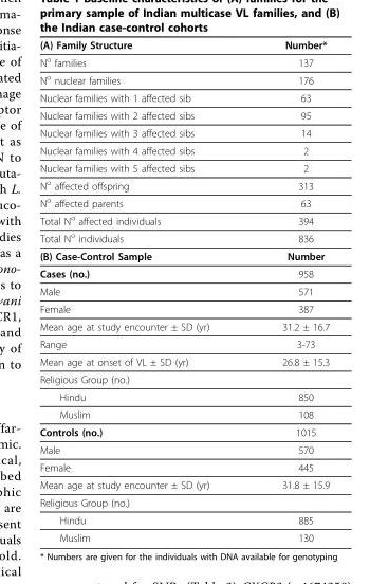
<table><thead><tr><td>(A) Family Structure</td><td>Number*</td></tr></thead><tbody><tr><td>N<sup>o</sup> families</td><td>137</td></tr><tr><td>N<sup>o</sup> nuclear families</td><td>176</td></tr><tr><td>Nuclear families with 1 affected sib</td><td>63</td></tr><tr><td>Nuclear families with 2 affected sibs</td><td>95</td></tr><tr><td>Nuclear families with 3 affected sibs</td><td>14</td></tr><tr><td>Nuclear families with 4 affected sibs</td><td>2</td></tr><tr><td>Nuclear families with 5 affected sibs</td><td>2</td></tr><tr><td>N<sup>o</sup> affected offspring</td><td>313</td></tr><tr><td>N<sup>o</sup> affected parents</td><td>63</td></tr><tr><td>Total N<sup>o</sup> affected individuals</td><td>394</td></tr><tr><td>Total N<sup>o</sup> individuals</td><td>836</td></tr><tr><td>(B) Case-Control Sample</td><td>Number</td></tr><tr><td>Cases (no.)</td><td>958</td></tr><tr><td>Male</td><td>571</td></tr><tr><td>Female</td><td>387</td></tr><tr><td>Mean age at study encounter ± SD (yr)</td><td>31.2 ± 16.7</td></tr><tr><td>Range</td><td>3-73</td></tr><tr><td>Mean age at onset of VL ± SD (yr)</td><td>26.8 ± 15.3</td></tr><tr><td colspan="2">Religious Group (no.)</td></tr><tr><td>Hindu</td><td>850</td></tr><tr><td>Muslim</td><td>108</td></tr><tr><td>Controls (no.)</td><td>1015</td></tr><tr><td>Male</td><td>570</td></tr><tr><td>Female</td><td>445</td></tr><tr><td>Mean age at study encounter ± SD (yr)</td><td>31.8 ± 15.9</td></tr><tr><td colspan="2">Religious Group (no.)</td></tr><tr><td>Hindu</td><td>885</td></tr><tr><td>Muslim</td><td>130</td></tr></tbody></table>